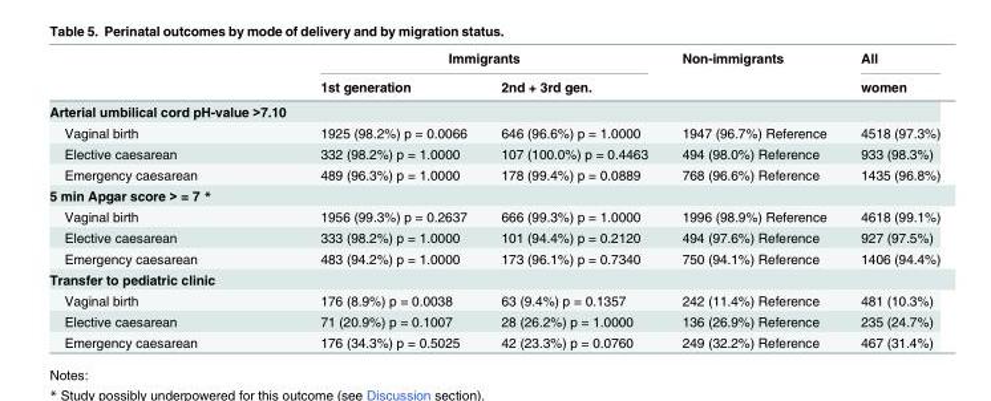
<table><thead><tr><td rowspan="2"></td><td colspan="2">Immigrants</td><td rowspan="2">Non-immigrants</td><td rowspan="2">All women</td></tr><tr><td>1st generation</td><td>2nd + 3rd gen.</td></tr></thead><tbody><tr><td colspan="5">Arterial umbilical cord pH-value &gt;7.10</td></tr><tr><td>Vaginal birth</td><td>1925 (98.2%) p = 0.0066</td><td>646 (96.6%) p = 1.0000</td><td>1947 (96.7%) Reference</td><td>4518 (97.3%)</td></tr><tr><td>Elective caesarean</td><td>332 (98.2%) p = 1.0000</td><td>107 (100.0%) p = 0.4463</td><td>494 (98.0%) Reference</td><td>933 (98.3%)</td></tr><tr><td>Emergency caesarean</td><td>489 (96.3%) p = 1.0000</td><td>178 (99.4%) p = 0.0889</td><td>768 (96.6%) Reference</td><td>1435 (96.8%)</td></tr><tr><td colspan="5">5 min Apgar score &gt; = 7 *</td></tr><tr><td>Vaginal birth</td><td>1956 (99.3%) p = 0.2637</td><td>666 (99.3%) p = 1.0000</td><td>1996 (98.9%) Reference</td><td>4618 (99.1%)</td></tr><tr><td>Elective caesarean</td><td>333 (98.2%) p = 1.0000</td><td>101 (94.4%) p = 0.2120</td><td>494 (97.6%) Reference</td><td>927 (97.5%)</td></tr><tr><td>Emergency caesarean</td><td>483 (94.2%) p = 1.0000</td><td>173 (96.1%) p = 0.7340</td><td>750 (94.1%) Reference</td><td>1406 (94.4%)</td></tr><tr><td colspan="5">Transfer to pediatric clinic</td></tr><tr><td>Vaginal birth</td><td>176 (8.9%) p = 0.0038</td><td>63 (9.4%) p = 0.1357</td><td>242 (11.4%) Reference</td><td>481 (10.3%)</td></tr><tr><td>Elective caesarean</td><td>71 (20.9%) p = 0.1007</td><td>28 (26.2%) p = 1.0000</td><td>136 (26.9%) Reference</td><td>235 (24.7%)</td></tr><tr><td>Emergency caesarean</td><td>176 (34.3%) p = 0.5025</td><td>42 (23.3%) p = 0.0760</td><td>249 (32.2%) Reference</td><td>467 (31.4%)</td></tr></tbody></table>